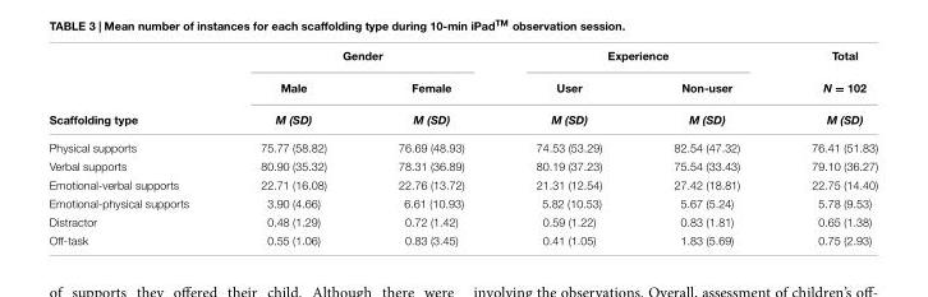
<table><thead><tr><td rowspan="3">Scaffolding type</td><td colspan="2">Gender</td><td colspan="2">Experience</td><td rowspan="3">Total N = 102 M (SD)</td></tr><tr><td rowspan="2">Male M (SD)</td><td rowspan="2">Female M (SD)</td><td rowspan="2">User M (SD)</td><td rowspan="2">Non-user M (SD)</td></tr><tr></tr></thead><tbody><tr><td>Physical supports</td><td>75.77 (58.82)</td><td>76.69 (48.93)</td><td>74.53 (53.29)</td><td>82.54 (47.32)</td><td>76.41 (51.83)</td></tr><tr><td>Verbal supports</td><td>80.90 (35.32)</td><td>78.31 (36.89)</td><td>80.19 (37.23)</td><td>75.54 (33.43)</td><td>79.10 (36.27)</td></tr><tr><td>Emotional-verbal supports</td><td>22.71 (16.08)</td><td>22.76 (13.72)</td><td>21.31 (12.54)</td><td>27.42 (18.81)</td><td>22.75 (14.40)</td></tr><tr><td>Emotional-physical supports</td><td>3.90 (4.66)</td><td>6.61 (10.93)</td><td>5.82 (10.53)</td><td>5.67 (5.24)</td><td>5.78 (9.53)</td></tr><tr><td>Distractor</td><td>0.48 (1.29)</td><td>0.72 (1.42)</td><td>0.59 (1.22)</td><td>0.83 (1.81)</td><td>0.65 (1.38)</td></tr><tr><td>Off-task</td><td>0.55 (1.06)</td><td>0.83 (3.45)</td><td>0.41 (1.05)</td><td>1.83 (5.69)</td><td>0.75 (2.93)</td></tr></tbody></table>